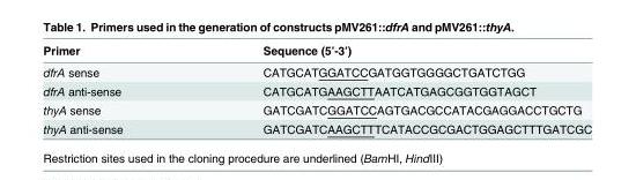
<table><thead><tr><td>Primer</td><td>Sequence (5’-3’)</td></tr></thead><tbody><tr><td>dfrA sense</td><td>CATGCATGGATCCGATGGTGGGGCTGATCTGG</td></tr><tr><td>dfrA anti-sense</td><td>CATGCATGAAGCTTAATCATGAGCGGTGGTAGCT</td></tr><tr><td>thyA sense</td><td>GATCGATCGGATCCAGTGACGCCATACGAGGACCTGCTG</td></tr><tr><td>thyA anti-sense</td><td>GATCGATCAAGCTTTCATACCGCGACTGGAGCTTTGATCGC</td></tr></tbody></table>